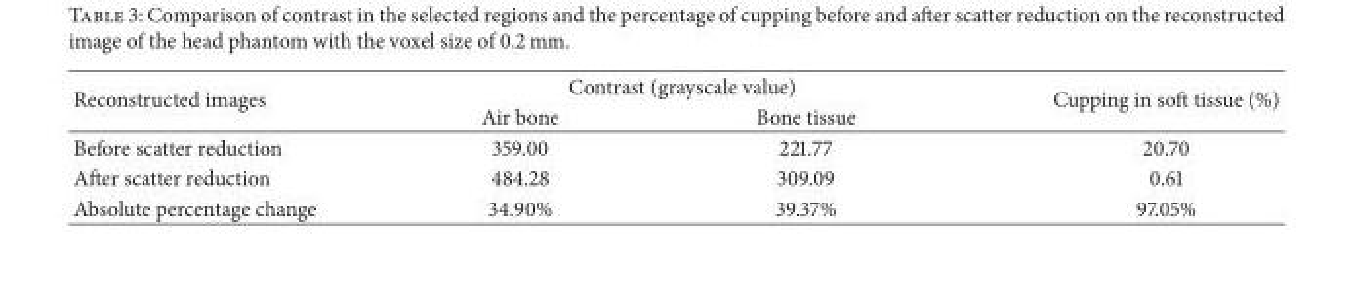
<table><thead><tr><td rowspan="2">Reconstructed images</td><td colspan="2">Contrast (grayscale value)</td><td rowspan="2">Cupping in soft tissue (%)</td></tr><tr><td>Air bone</td><td>Bone tissue</td></tr></thead><tbody><tr><td>Before scatter reduction</td><td>359.00</td><td>221.77</td><td>20.70</td></tr><tr><td>After scatter reduction</td><td>484.28</td><td>309.09</td><td>0.61</td></tr><tr><td>Absolute percentage change</td><td>34.90%</td><td>39.37%</td><td>97.05%</td></tr></tbody></table>